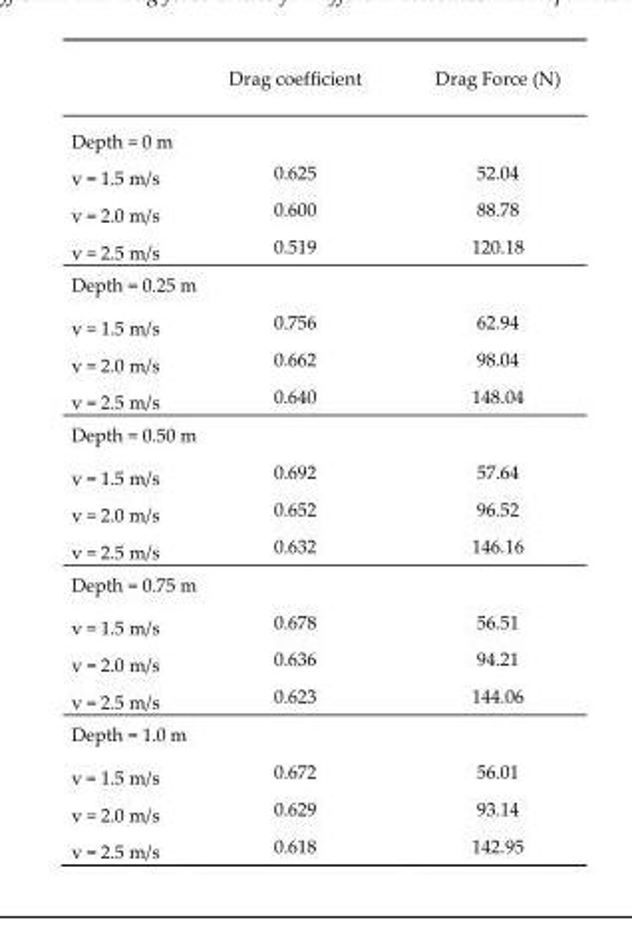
<table><thead><tr><td></td><td>Drag coefficient</td><td>Drag Force (N)</td></tr></thead><tbody><tr><td colspan="3">Depth = 0 m</td></tr><tr><td>v = 1.5 m/s</td><td>0.625</td><td>52.04</td></tr><tr><td>v = 2.0 m/s</td><td>0.600</td><td>88.78</td></tr><tr><td>v = 2.5 m/s</td><td>0.519</td><td>120.18</td></tr><tr><td colspan="3">Depth = 0.25 m</td></tr><tr><td>v = 1.5 m/s</td><td>0.756</td><td>62.94</td></tr><tr><td>v = 2.0 m/s</td><td>0.662</td><td>98.04</td></tr><tr><td>v = 2.5 m/s</td><td>0.640</td><td>148.04</td></tr><tr><td colspan="3">Depth = 0.50 m</td></tr><tr><td>v = 1.5 m/s</td><td>0.692</td><td>57.64</td></tr><tr><td>v = 2.0 m/s</td><td>0.652</td><td>96.52</td></tr><tr><td>v = 2.5 m/s</td><td>0.632</td><td>146.16</td></tr><tr><td colspan="3">Depth = 0.75 m</td></tr><tr><td>v = 1.5 m/s</td><td>0.678</td><td>56.51</td></tr><tr><td>v = 2.0 m/s</td><td>0.636</td><td>94.21</td></tr><tr><td>v = 2.5 m/s</td><td>0.623</td><td>144.06</td></tr><tr><td colspan="3">Depth = 1.0 m</td></tr><tr><td>v = 1.5 m/s</td><td>0.672</td><td>56.01</td></tr><tr><td>v = 2.0 m/s</td><td>0.629</td><td>93.14</td></tr><tr><td>v = 2.5 m/s</td><td>0.618</td><td>142.95</td></tr></tbody></table>